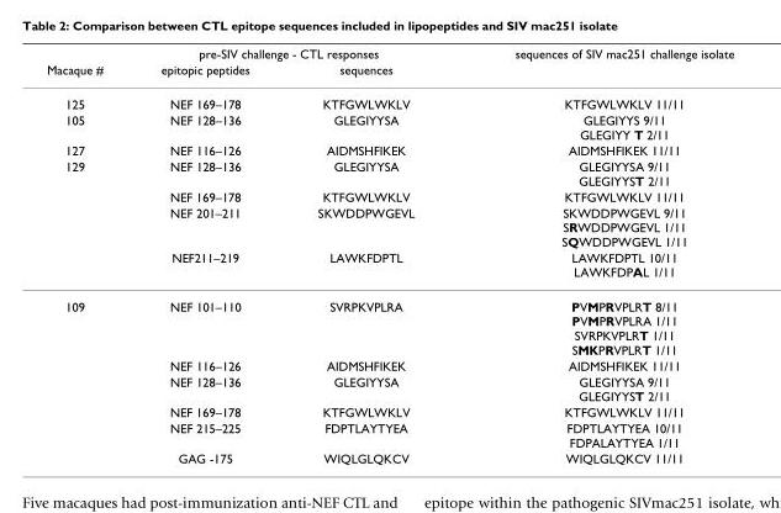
<table><thead><tr><td rowspan="2">Macaque #</td><td colspan="2">pre-SIV challenge - CTL responses</td><td rowspan="2">sequences of SIV mac251 challenge isolate</td></tr><tr><td>epitopic peptides</td><td>sequences</td></tr></thead><tbody><tr><td>125</td><td>NEF 169–178</td><td>KTFGWLWKLV</td><td>KTFGWLWKLV 11/11</td></tr><tr><td>105</td><td>NEF 128–136</td><td>GLEGIYYSA</td><td>GLEGIYYS 9/11 GLEGIYY T 2/11</td></tr><tr><td>127</td><td>NEF 116–126</td><td>AIDMSHFIKEK</td><td>AIDMSHFIKEK 11/11</td></tr><tr><td rowspan="4">129</td><td>NEF 128–136</td><td>GLEGIYYSA</td><td>GLEGIYYSA 9/11 GLEGIYYST 2/11</td></tr><tr><td>NEF 169–178</td><td>KTFGWLWKLV</td><td>KTFGWLWKLV 11/11</td></tr><tr><td>NEF 201–211</td><td>SKWDDPWGEVL</td><td>SKWDDPWGEVL 9/11 SRWDDPWGEVL 1/11 SQWDDPWGEVL 1/11</td></tr><tr><td>NEF211–219</td><td>LAWKFDPTL</td><td>LAWKFDPTL 10/11 LAWKFDPAL 1/11</td></tr><tr><td rowspan="6">109</td><td>NEF 101–110</td><td>SVRPKVPLRA</td><td>PVMPRVPLRT 8/11 PVMPRVPLRA 1/11 SVRPKVPLRT 1/11 SMKPRVPLRT 1/11</td></tr><tr><td>NEF 116–126</td><td>AIDMSHFIKEK</td><td>AIDMSHFIKEK 11/11</td></tr><tr><td>NEF 128–136</td><td>GLEGIYYSA</td><td>GLEGIYYSA 9/11 GLEGIYYST 2/11</td></tr><tr><td>NEF 169–178</td><td>KTFGWLWKLV</td><td>KTFGWLWKLV 11/11</td></tr><tr><td>NEF 215–225</td><td>FDPTLAYTYEA</td><td>FDPTLAYTYEA 10/11 FDPALAYTYEA 1/11</td></tr><tr><td>GAG -175</td><td>WIQLGLQKCV</td><td>WIQLGLQKCV 11/11</td></tr></tbody></table>